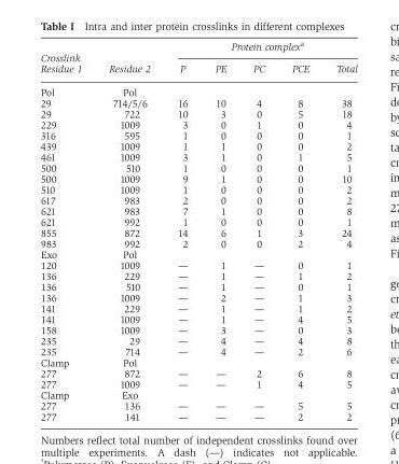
<table><thead><tr><td colspan="2">Crosslink</td><td colspan="5">Protein complexa</td></tr><tr><td>Residue 1</td><td>Residue 2</td><td>P</td><td>PE</td><td>PC</td><td>PCE</td><td>Total</td></tr></thead><tbody><tr><td>Pol</td><td>Pol</td><td></td><td></td><td></td><td></td><td></td></tr><tr><td>29</td><td>714/5/6</td><td>16</td><td>10</td><td>4</td><td>8</td><td>38</td></tr><tr><td>29</td><td>722</td><td>10</td><td>3</td><td>0</td><td>5</td><td>18</td></tr><tr><td>229</td><td>1009</td><td>3</td><td>0</td><td>1</td><td>0</td><td>4</td></tr><tr><td>316</td><td>595</td><td>1</td><td>0</td><td>0</td><td>0</td><td>1</td></tr><tr><td>439</td><td>1009</td><td>1</td><td>1</td><td>0</td><td>0</td><td>2</td></tr><tr><td>461</td><td>1009</td><td>3</td><td>1</td><td>0</td><td>1</td><td>5</td></tr><tr><td>500</td><td>510</td><td>1</td><td>0</td><td>0</td><td>0</td><td>1</td></tr><tr><td>500</td><td>1009</td><td>9</td><td>1</td><td>0</td><td>0</td><td>10</td></tr><tr><td>510</td><td>1009</td><td>1</td><td>0</td><td>0</td><td>0</td><td>2</td></tr><tr><td>617</td><td>983</td><td>2</td><td>0</td><td>0</td><td>0</td><td>2</td></tr><tr><td>621</td><td>983</td><td>7</td><td>1</td><td>0</td><td>0</td><td>8</td></tr><tr><td>621</td><td>992</td><td>1</td><td>0</td><td>0</td><td>0</td><td>1</td></tr><tr><td>855</td><td>872</td><td>14</td><td>6</td><td>1</td><td>3</td><td>24</td></tr><tr><td>983</td><td>992</td><td>2</td><td>0</td><td>0</td><td>2</td><td>4</td></tr><tr><td>Exo</td><td>Pol</td><td></td><td></td><td></td><td></td><td></td></tr><tr><td>120</td><td>1009</td><td>—</td><td>1</td><td>—</td><td>0</td><td>1</td></tr><tr><td>136</td><td>229</td><td>—</td><td>1</td><td>—</td><td>1</td><td>2</td></tr><tr><td>136</td><td>510</td><td>—</td><td>1</td><td>—</td><td>0</td><td>1</td></tr><tr><td>136</td><td>1009</td><td>—</td><td>2</td><td>—</td><td>1</td><td>3</td></tr><tr><td>141</td><td>229</td><td>—</td><td>1</td><td>—</td><td>1</td><td>2</td></tr><tr><td>141</td><td>1009</td><td>—</td><td>1</td><td>—</td><td>4</td><td>5</td></tr><tr><td>158</td><td>1009</td><td>—</td><td>3</td><td>—</td><td>0</td><td>3</td></tr><tr><td>235</td><td>29</td><td>—</td><td>4</td><td>—</td><td>4</td><td>8</td></tr><tr><td>235</td><td>714</td><td>—</td><td>4</td><td>—</td><td>2</td><td>6</td></tr><tr><td>Clamp</td><td>Pol</td><td></td><td></td><td></td><td></td><td></td></tr><tr><td>277</td><td>872</td><td>—</td><td>—</td><td>2</td><td>6</td><td>8</td></tr><tr><td>277</td><td>1009</td><td>—</td><td>—</td><td>1</td><td>4</td><td>5</td></tr><tr><td>Clamp</td><td>Exo</td><td></td><td></td><td></td><td></td><td></td></tr><tr><td>277</td><td>136</td><td>—</td><td>—</td><td>—</td><td>5</td><td>5</td></tr><tr><td>277</td><td>141</td><td>—</td><td>—</td><td>—</td><td>2</td><td>2</td></tr></tbody></table>